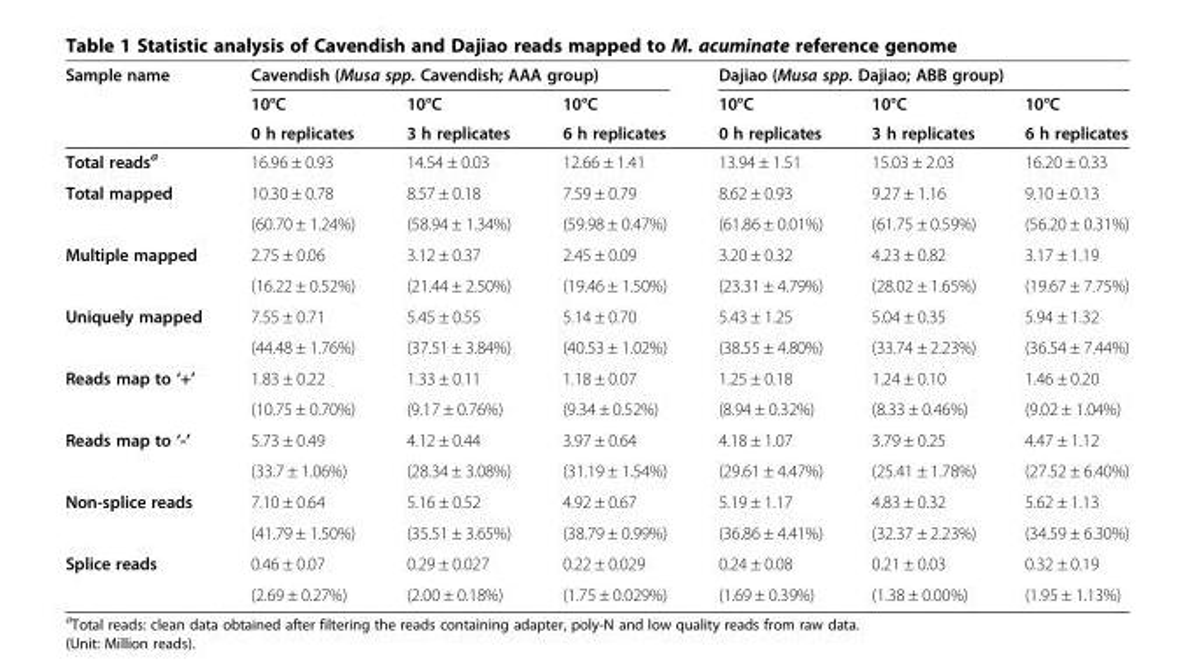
<table><thead><tr><td rowspan="3">Sample name</td><td colspan="3">Cavendish (Musa spp. Cavendish; AAA group)</td><td colspan="3">Dajiao (Musa spp. Dajiao; ABB group)</td></tr><tr><td rowspan="2">10°C 0 h replicates</td><td rowspan="2">10°C 3 h replicates</td><td rowspan="2">10°C 6 h replicates</td><td rowspan="2">10°C 0 h replicates</td><td rowspan="2">10°C 3 h replicates</td><td rowspan="2">10°C 6 h replicates</td></tr><tr></tr></thead><tbody><tr><td>Total reads<sup>a</sup></td><td>16.96 ± 0.93</td><td>14.54 ± 0.03</td><td>12.66 ± 1.41</td><td>13.94 ± 1.51</td><td>15.03 ± 2.03</td><td>16.20 ± 0.33</td></tr><tr><td rowspan="2">Total mapped</td><td>10.30 ± 0.78</td><td>8.57 ± 0.18</td><td>7.59 ± 0.79</td><td>8.62 ± 0.93</td><td>9.27 ± 1.16</td><td>9.10 ± 0.13</td></tr><tr><td>(60.70 ± 1.24%)</td><td>(58.94 ± 1.34%)</td><td>(59.98 ± 0.47%)</td><td>(61.86 ± 0.01%)</td><td>(61.75 ± 0.59%)</td><td>(56.20 ± 0.31%)</td></tr><tr><td rowspan="2">Multiple mapped</td><td>2.75 ± 0.06</td><td>3.12 ± 0.37</td><td>2.45 ± 0.09</td><td>3.20 ± 0.32</td><td>4.23 ± 0.82</td><td>3.17 ± 1.19</td></tr><tr><td>(16.22 ± 0.52%)</td><td>(21.44 ± 2.50%)</td><td>(19.46 ± 1.50%)</td><td>(23.31 ± 4.79%)</td><td>(28.02 ± 1.65%)</td><td>(19.67 ± 7.75%)</td></tr><tr><td rowspan="2">Uniquely mapped</td><td>7.55 ± 0.71</td><td>5.45 ± 0.55</td><td>5.14 ± 0.70</td><td>5.43 ± 1.25</td><td>5.04 ± 0.35</td><td>5.94 ± 1.32</td></tr><tr><td>(44.48 ± 1.76%)</td><td>(37.51 ± 3.84%)</td><td>(40.53 ± 1.02%)</td><td>(38.55 ± 4.80%)</td><td>(33.74 ± 2.23%)</td><td>(36.54 ± 7.44%)</td></tr><tr><td rowspan="2">Reads map to ‘+’</td><td>1.83 ± 0.22</td><td>1.33 ± 0.11</td><td>1.18 ± 0.07</td><td>1.25 ± 0.18</td><td>1.24 ± 0.10</td><td>1.46 ± 0.20</td></tr><tr><td>(10.75 ± 0.70%)</td><td>(9.17 ± 0.76%)</td><td>(9.34 ± 0.52%)</td><td>(8.94 ± 0.32%)</td><td>(8.33 ± 0.46%)</td><td>(9.02 ± 1.04%)</td></tr><tr><td rowspan="2">Reads map to ‘-’</td><td>5.73 ± 0.49</td><td>4.12 ± 0.44</td><td>3.97 ± 0.64</td><td>4.18 ± 1.07</td><td>3.79 ± 0.25</td><td>4.47 ± 1.12</td></tr><tr><td>(33.7 ± 1.06%)</td><td>(28.34 ± 3.08%)</td><td>(31.19 ± 1.54%)</td><td>(29.61 ± 4.47%)</td><td>(25.41 ± 1.78%)</td><td>(27.52 ± 6.40%)</td></tr><tr><td rowspan="2">Non-splice reads</td><td>7.10 ± 0.64</td><td>5.16 ± 0.52</td><td>4.92 ± 0.67</td><td>5.19 ± 1.17</td><td>4.83 ± 0.32</td><td>5.62 ± 1.13</td></tr><tr><td>(41.79 ± 1.50%)</td><td>(35.51 ± 3.65%)</td><td>(38.79 ± 0.99%)</td><td>(36.86 ± 4.41%)</td><td>(32.37 ± 2.23%)</td><td>(34.59 ± 6.30%)</td></tr><tr><td rowspan="2">Splice reads</td><td>0.46 ± 0.07</td><td>0.29 ± 0.027</td><td>0.22 ± 0.029</td><td>0.24 ± 0.08</td><td>0.21 ± 0.03</td><td>0.32 ± 0.19</td></tr><tr><td>(2.69 ± 0.27%)</td><td>(2.00 ± 0.18%)</td><td>(1.75 ± 0.029%)</td><td>(1.69 ± 0.39%)</td><td>(1.38 ± 0.00%)</td><td>(1.95 ± 1.13%)</td></tr></tbody></table>